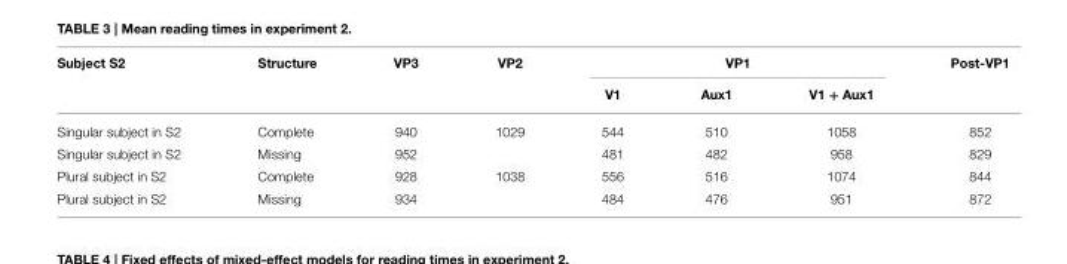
<table><thead><tr><td rowspan="2">Subject S2</td><td rowspan="2">Structure</td><td rowspan="2">VP3</td><td rowspan="2">VP2</td><td colspan="3">VP1</td><td rowspan="2">Post-VP1</td></tr><tr><td>V1</td><td>Aux1</td><td>V1 + Aux1</td></tr></thead><tbody><tr><td>Singular subject in S2</td><td>Complete</td><td>940</td><td>1029</td><td>544</td><td>510</td><td>1058</td><td>852</td></tr><tr><td>Singular subject in S2</td><td>Missing</td><td>952</td><td></td><td>481</td><td>482</td><td>958</td><td>829</td></tr><tr><td>Plural subject in S2</td><td>Complete</td><td>928</td><td>1038</td><td>556</td><td>516</td><td>1074</td><td>844</td></tr><tr><td>Plural subject in S2</td><td>Missing</td><td>934</td><td></td><td>484</td><td>476</td><td>951</td><td>872</td></tr></tbody></table>